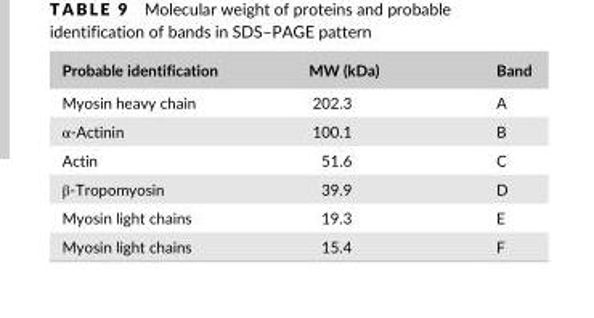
<table><thead><tr><td>Probable identification</td><td>MW (kDa)</td><td>Band</td></tr></thead><tbody><tr><td>Myosin heavy chain</td><td>202.3</td><td>A</td></tr><tr><td>α- Actinin</td><td>100.1</td><td>B</td></tr><tr><td>Actin</td><td>51.6</td><td>C</td></tr><tr><td>β- Tropomyosin</td><td>39.9</td><td>D</td></tr><tr><td>Myosin light chains</td><td>19.3</td><td>E</td></tr><tr><td>Myosin light chains</td><td>15.4</td><td>F</td></tr></tbody></table>